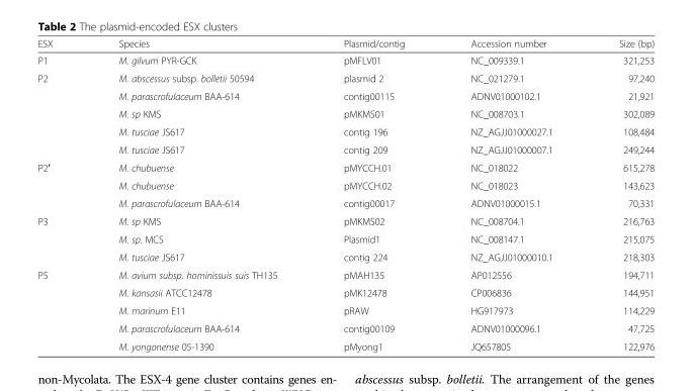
<table><thead><tr><td>ESX</td><td>Species</td><td>Plasmid/contig</td><td>Accession number</td><td>Size (bp)</td></tr></thead><tbody><tr><td>P1</td><td>M. gilvum PYR-GCK</td><td>pMFLV01</td><td>NC_009339.1</td><td>321,253</td></tr><tr><td rowspan="5">P2</td><td>M. abscessus subsp. bolletii 50594</td><td>plasmid 2</td><td>NC_021279.1</td><td>97,240</td></tr><tr><td>M. parascrofulaceum BAA-614</td><td>contig00115</td><td>ADNV01000102.1</td><td>21,921</td></tr><tr><td>M. sp KMS</td><td>pMKMS01</td><td>NC_008703.1</td><td>302,089</td></tr><tr><td>M. tusciae JS617</td><td>contig 196</td><td>NZ_AGJJ01000027.1</td><td>108,484</td></tr><tr><td>M. tusciae JS617</td><td>contig 209</td><td>NZ_AGJJ01000007.1</td><td>249,244</td></tr><tr><td rowspan="3">P2′</td><td>M. chubuense</td><td>pMYCCH.01</td><td>NC_018022</td><td>615,278</td></tr><tr><td>M. chubuense</td><td>pMYCCH.02</td><td>NC_018023</td><td>143,623</td></tr><tr><td>M. parascrofulaceum BAA-614</td><td>contig00017</td><td>ADNV01000015.1</td><td>70,331</td></tr><tr><td rowspan="3">P3</td><td>M. sp KMS</td><td>pMKMS02</td><td>NC_008704.1</td><td>216,763</td></tr><tr><td>M. sp. MCS</td><td>Plasmid1</td><td>NC_008147.1</td><td>215,075</td></tr><tr><td>M. tusciae JS617</td><td>contig 224</td><td>NZ_AGJJ01000010.1</td><td>218,303</td></tr><tr><td rowspan="5">P5</td><td>M. avium subsp. hominissuis suis TH135</td><td>pMAH135</td><td>AP012556</td><td>194,711</td></tr><tr><td>M. kansasii ATCC12478</td><td>pMK12478</td><td>CP006836</td><td>144,951</td></tr><tr><td>M. marinum E11</td><td>pRAW</td><td>HG917973</td><td>114,229</td></tr><tr><td>M. parascrofulaceum BAA-614</td><td>contig00109</td><td>ADNV01000096.1</td><td>47,725</td></tr><tr><td>M. yongonense 05-1390</td><td>pMyong1</td><td>JQ657805</td><td>122,976</td></tr></tbody></table>